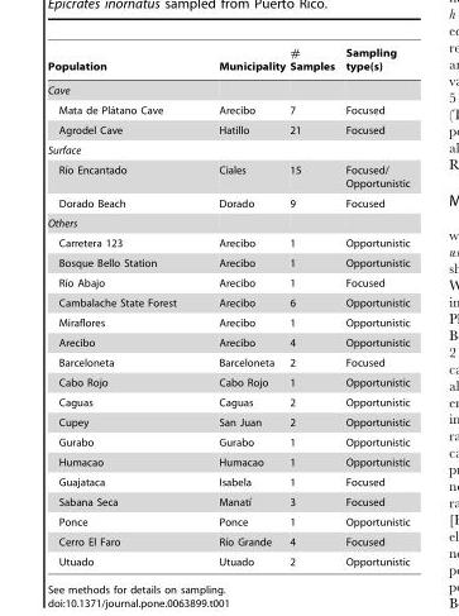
<table><thead><tr><td>Population</td><td>Municipality</td><td># Samples</td><td>Sampling type(s)</td></tr></thead><tbody><tr><td colspan="4">Cave</td></tr><tr><td>Mata de Pla´tano Cave</td><td>Arecibo</td><td>7</td><td>Focused</td></tr><tr><td>Agrodel Cave</td><td>Hatillo</td><td>21</td><td>Focused</td></tr><tr><td colspan="4">Surface</td></tr><tr><td>Rı´o Encantado</td><td>Ciales</td><td>15</td><td>Focused/ Opportunistic</td></tr><tr><td>Dorado Beach</td><td>Dorado</td><td>9</td><td>Focused</td></tr><tr><td colspan="4">Others</td></tr><tr><td>Carretera 123</td><td>Arecibo</td><td>1</td><td>Opportunistic</td></tr><tr><td>Bosque Bello Station</td><td>Arecibo</td><td>1</td><td>Opportunistic</td></tr><tr><td>Rı´o Abajo</td><td>Arecibo</td><td>1</td><td>Focused</td></tr><tr><td>Cambalache State Forest</td><td>Arecibo</td><td>6</td><td>Opportunistic</td></tr><tr><td>Miraflores</td><td>Arecibo</td><td>1</td><td>Opportunistic</td></tr><tr><td>Arecibo</td><td>Arecibo</td><td>4</td><td>Opportunistic</td></tr><tr><td>Barceloneta</td><td>Barceloneta</td><td>2</td><td>Focused</td></tr><tr><td>Cabo Rojo</td><td>Cabo Rojo</td><td>1</td><td>Opportunistic</td></tr><tr><td>Caguas</td><td>Caguas</td><td>2</td><td>Opportunistic</td></tr><tr><td>Cupey</td><td>San Juan</td><td>2</td><td>Opportunistic</td></tr><tr><td>Gurabo</td><td>Gurabo</td><td>1</td><td>Opportunistic</td></tr><tr><td>Humacao</td><td>Humacao</td><td>1</td><td>Opportunistic</td></tr><tr><td>Guajataca</td><td>Isabela</td><td>1</td><td>Focused</td></tr><tr><td>Sabana Seca</td><td>Manatı´</td><td>3</td><td>Focused</td></tr><tr><td>Ponce</td><td>Ponce</td><td>1</td><td>Opportunistic</td></tr><tr><td>Cerro El Faro</td><td>Rı´o Grande</td><td>4</td><td>Focused</td></tr><tr><td>Utuado</td><td>Utuado</td><td>2</td><td>Opportunistic</td></tr></tbody></table>